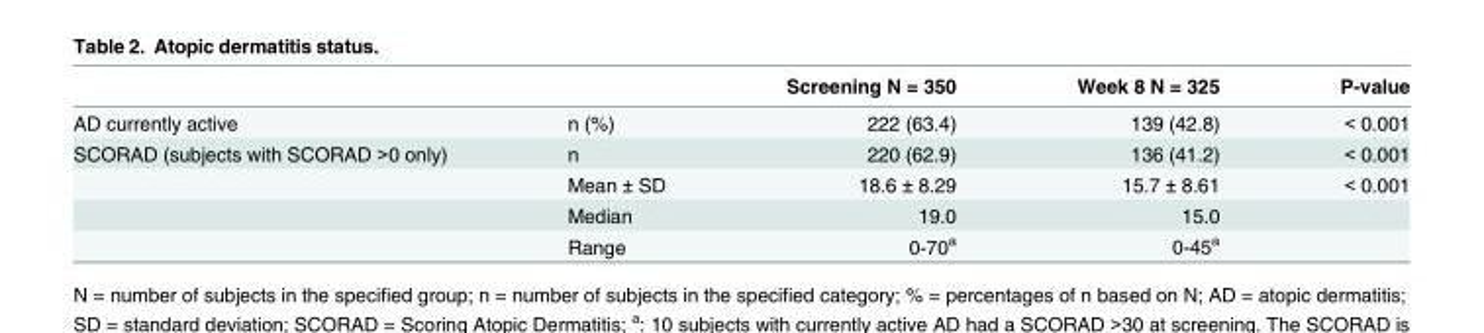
<table><thead><tr><td></td><td></td><td>Screening N = 350</td><td>Week 8 N = 325</td><td>P-value</td></tr></thead><tbody><tr><td>AD currently active</td><td>n (%)</td><td>222 (63.4)</td><td>139 (42.8)</td><td>&lt; 0.001</td></tr><tr><td rowspan="4">SCORAD (subjects with SCORAD &gt;0 only)</td><td>n</td><td>220 (62.9)</td><td>136 (41.2)</td><td>&lt; 0.001</td></tr><tr><td>Mean ± SD</td><td>18.6 ± 8.29</td><td>15.7 ± 8.61</td><td>&lt; 0.001</td></tr><tr><td>Median</td><td>19.0</td><td>15.0</td><td></td></tr><tr><td>Range</td><td>0-70<sup>a</sup></td><td>0-45<sup>a</sup></td><td></td></tr></tbody></table>